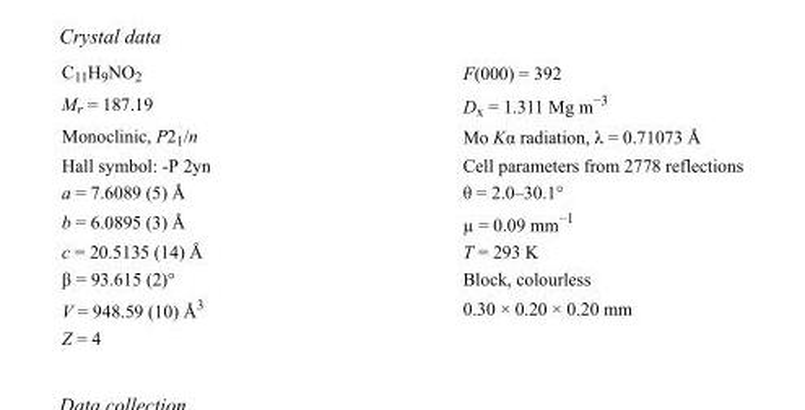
<table><tbody><tr><td>C<sub>11</sub>H<sub>9</sub>NO<sub>2</sub></td><td>F(000) = 392</td></tr><tr><td>M<sub>r</sub> = 187.19</td><td>D<sub>x</sub> = 1.311 Mg m<sup>−3</sup></td></tr><tr><td>Monoclinic, P2<sub>1</sub>/n</td><td>Mo Kα radiation, λ = 0.71073 Å</td></tr><tr><td>Hall symbol: -P 2yn</td><td>Cell parameters from 2778 reflections</td></tr><tr><td>a = 7.6089 (5) Å</td><td>θ = 2.0–30.1°</td></tr><tr><td>b = 6.0895 (3) Å</td><td>µ = 0.09 mm<sup>−1</sup></td></tr><tr><td>c = 20.5135 (14) Å</td><td>T = 293 K</td></tr><tr><td>β = 93.615 (2)°</td><td>Block, colourless</td></tr><tr><td>V = 948.59 (10) Å<sup>3</sup></td><td>0.30 × 0.20 × 0.20 mm</td></tr><tr><td>Z = 4</td><td></td></tr></tbody></table>